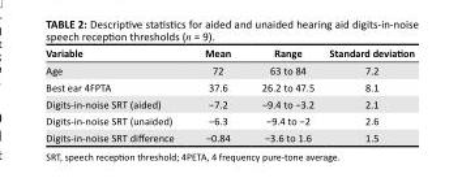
<table><thead><tr><td>Variable</td><td>Mean</td><td>Range</td><td>Standard deviation</td></tr></thead><tbody><tr><td>Age</td><td>72</td><td>63 to 84</td><td>7.2</td></tr><tr><td>Best ear 4FPTA</td><td>37.6</td><td>26.2 to 47.5</td><td>8.1</td></tr><tr><td>Digits-in-noise SRT (aided)</td><td>−7.2</td><td>−9.4 to −3.2</td><td>2.1</td></tr><tr><td>Digits-in-noise SRT (unaided)</td><td>−6.3</td><td>−9.4 to −2</td><td>2.6</td></tr><tr><td>Digits-in-noise SRT difference</td><td>−0.84</td><td>−3.6 to 1.6</td><td>1.5</td></tr></tbody></table>